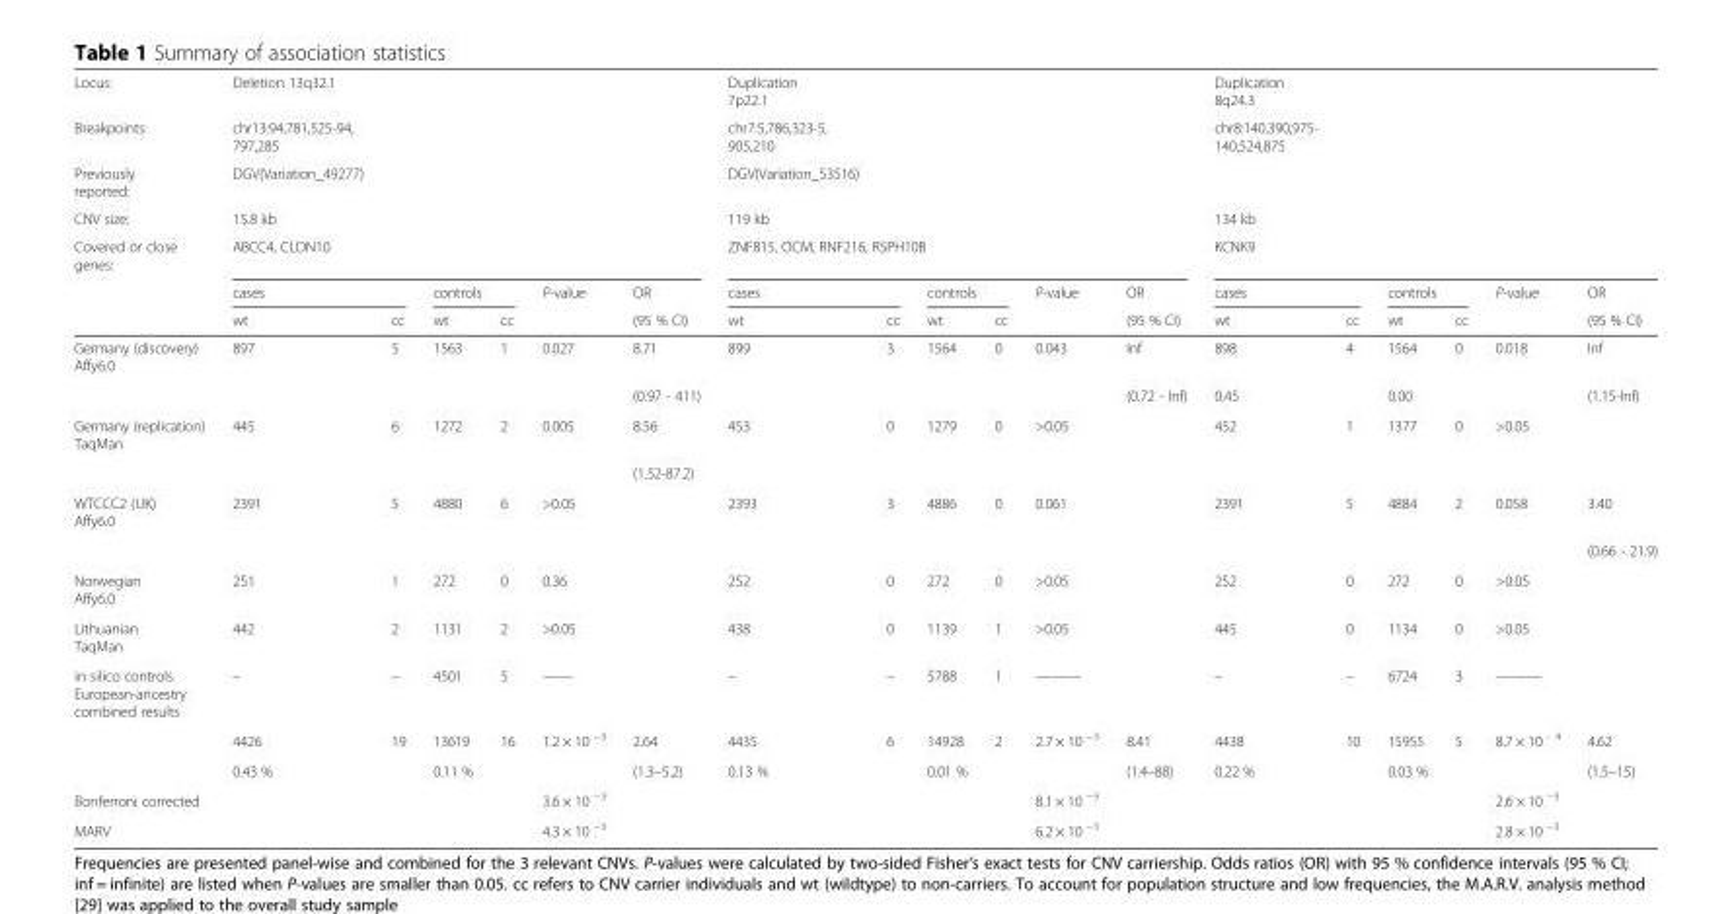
<table><thead><tr><td rowspan="7">Locus: Breakpoints: Previously reported: CNV size: Covered or close genes:</td><td rowspan="4">Deletion 13q32.1 chr13:94,781,525-94, 797,285 DGV(Variation_49277) 15.8 kb</td><td rowspan="4"></td><td rowspan="4"></td><td rowspan="4"></td><td rowspan="4"></td><td rowspan="4"></td><td rowspan="4">Duplication 7p22.1 chr7:5,786,323-5, 905,210 DGV(Variation_53516) 119 kb</td><td rowspan="4"></td><td rowspan="4"></td><td rowspan="4"></td><td rowspan="4"></td><td rowspan="4"></td><td rowspan="4">Duplication 8q24.3 chr8:140,390,975- 140,524,875 134 kb</td><td rowspan="4"></td><td rowspan="4"></td><td rowspan="4"></td><td rowspan="4"></td><td rowspan="4"></td></tr><tr></tr><tr></tr><tr></tr><tr><td colspan="6">ABCC4, CLDN10</td><td colspan="6">ZNF815, OCM, RNF216, RSPH10B</td><td colspan="6">KCNK9</td></tr><tr><td colspan="2">cases</td><td colspan="2">controls</td><td rowspan="2">P-value</td><td rowspan="2">OR (95 % CI)</td><td colspan="2">cases</td><td colspan="2">controls</td><td rowspan="2">P-value</td><td rowspan="2">OR (95 % CI)</td><td colspan="2">cases</td><td colspan="2">controls</td><td rowspan="2">P-value</td><td rowspan="2">OR (95 % CI)</td></tr><tr><td>wt</td><td>cc</td><td>wt</td><td>cc</td><td>wt</td><td>cc</td><td>wt</td><td>cc</td><td>wt</td><td>cc</td><td>wt</td><td>cc</td></tr></thead><tbody><tr><td rowspan="2">Germany (discovery) Affy6.0</td><td>897</td><td>5</td><td>1563</td><td>1</td><td>0.027</td><td>8.71</td><td>899</td><td>3</td><td>1564</td><td>0</td><td>0.043</td><td>Inf</td><td>898</td><td>4</td><td>1564</td><td>0</td><td>0.018</td><td>Inf</td></tr><tr><td></td><td></td><td></td><td></td><td></td><td>(0.97 - 411)</td><td></td><td></td><td></td><td></td><td></td><td>(0.72 - Inf)</td><td>0.45</td><td></td><td>0.00</td><td></td><td></td><td>(1.15-Inf)</td></tr><tr><td rowspan="2">Germany (replication) TaqMan</td><td>445</td><td>6</td><td>1272</td><td>2</td><td>0.005</td><td>8.56</td><td>453</td><td>0</td><td>1279</td><td>0</td><td>&gt;0.05</td><td></td><td>452</td><td>1</td><td>1377</td><td>0</td><td>&gt;0.05</td><td></td></tr><tr><td></td><td></td><td></td><td></td><td></td><td>(1.52-87.2)</td><td></td><td></td><td></td><td></td><td></td><td></td><td></td><td></td><td></td><td></td><td></td><td></td></tr><tr><td rowspan="2">WTCCC2 (UK) Affy6.0</td><td>2391</td><td>5</td><td>4880</td><td>6</td><td>&gt;0.05</td><td></td><td>2393</td><td>3</td><td>4886</td><td>0</td><td>0.061</td><td></td><td>2391</td><td>5</td><td>4884</td><td>2</td><td>0.058</td><td>3.40</td></tr><tr><td></td><td></td><td></td><td></td><td></td><td></td><td></td><td></td><td></td><td></td><td></td><td></td><td></td><td></td><td></td><td></td><td></td><td>(0.66 - 21.9)</td></tr><tr><td>Norwegian Affy6.0</td><td>251</td><td>1</td><td>272</td><td>0</td><td>0.36</td><td></td><td>252</td><td>0</td><td>272</td><td>0</td><td>&gt;0.05</td><td></td><td>252</td><td>0</td><td>272</td><td>0</td><td>&gt;0.05</td><td></td></tr><tr><td>Lithuanian TaqMan</td><td>442</td><td>2</td><td>1131</td><td>2</td><td>&gt;0.05</td><td></td><td>438</td><td>0</td><td>1139</td><td>1</td><td>&gt;0.05</td><td></td><td>445</td><td>0</td><td>1134</td><td>0</td><td>&gt;0.05</td><td></td></tr><tr><td rowspan="3">in silico controls European-ancestry combined results</td><td>–</td><td>–</td><td>4501</td><td>5</td><td>——</td><td></td><td>–</td><td>–</td><td>5788</td><td>1</td><td>———</td><td></td><td>–</td><td>–</td><td>6724</td><td>3</td><td>———</td><td></td></tr><tr><td>4426</td><td>19</td><td>13619</td><td>16</td><td>1.2 × 10 <sup>−3</sup></td><td>2.64</td><td>4435</td><td>6</td><td>14928</td><td>2</td><td>2.7 × 10 <sup>−3</sup></td><td>8.41</td><td>4438</td><td>10</td><td>15955</td><td>5</td><td>8.7 × 10 <sup>- 4</sup></td><td>4.62</td></tr><tr><td>0.43 %</td><td></td><td>0.11 %</td><td></td><td></td><td>(1.3–5.2)</td><td>0.13 %</td><td></td><td>0.01 %</td><td></td><td></td><td>(1.4–88)</td><td>0.22 %</td><td></td><td>0.03 %</td><td></td><td></td><td>(1.5–15)</td></tr><tr><td>Bonferroni corrected</td><td></td><td></td><td></td><td></td><td>3.6 × 10 <sup>−3</sup></td><td></td><td></td><td></td><td></td><td></td><td>8.1 × 10 <sup>−3</sup></td><td></td><td></td><td></td><td></td><td></td><td>2.6 × 10 <sup>−3</sup></td><td></td></tr><tr><td>MARV</td><td></td><td></td><td></td><td></td><td>4.3 × 10 <sup>−3</sup></td><td></td><td></td><td></td><td></td><td></td><td>6.2 × 10 <sup>−3</sup></td><td></td><td></td><td></td><td></td><td></td><td>2.8 × 10 <sup>−3</sup></td><td></td></tr></tbody></table>